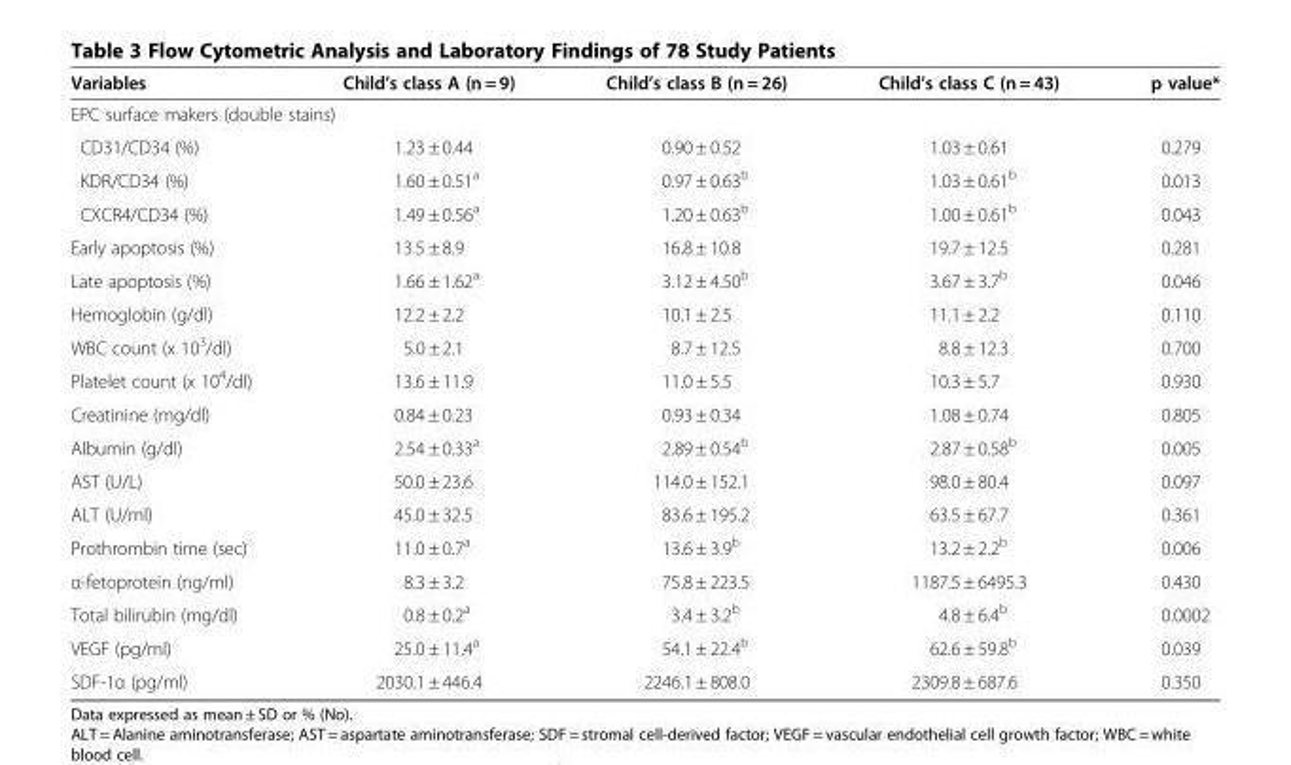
<table><thead><tr><td>Variables</td><td>Child’s class A (n = 9)</td><td>Child’s class B (n = 26)</td><td>Child’s class C (n = 43)</td><td>p value*</td></tr></thead><tbody><tr><td colspan="5">EPC surface makers (double stains)</td></tr><tr><td>CD31/CD34 (%)</td><td>1.23 ± 0.44</td><td>0.90 ± 0.52</td><td>1.03 ± 0.61</td><td>0.279</td></tr><tr><td>KDR/CD34 (%)</td><td>1.60 ± 0.51<sup>a</sup></td><td>0.97 ± 0.63<sup>b</sup></td><td>1.03 ± 0.61<sup>b</sup></td><td>0.013</td></tr><tr><td>CXCR4/CD34 (%)</td><td>1.49 ± 0.56<sup>a</sup></td><td>1.20 ± 0.63<sup>b</sup></td><td>1.00 ± 0.61<sup>b</sup></td><td>0.043</td></tr><tr><td>Early apoptosis (%)</td><td>13.5 ± 8.9</td><td>16.8 ± 10.8</td><td>19.7 ± 12.5</td><td>0.281</td></tr><tr><td>Late apoptosis (%)</td><td>1.66 ± 1.62<sup>a</sup></td><td>3.12 ± 4.50<sup>b</sup></td><td>3.67 ± 3.7<sup>b</sup></td><td>0.046</td></tr><tr><td>Hemoglobin (g/dl)</td><td>12.2 ± 2.2</td><td>10.1 ± 2.5</td><td>11.1 ± 2.2</td><td>0.110</td></tr><tr><td>WBC count (x 10<sup>3</sup>/dl)</td><td>5.0 ± 2.1</td><td>8.7 ± 12.5</td><td>8.8 ± 12.3</td><td>0.700</td></tr><tr><td>Platelet count (x 10<sup>4</sup>/dl)</td><td>13.6 ± 11.9</td><td>11.0 ± 5.5</td><td>10.3 ± 5.7</td><td>0.930</td></tr><tr><td>Creatinine (mg/dl)</td><td>0.84 ± 0.23</td><td>0.93 ± 0.34</td><td>1.08 ± 0.74</td><td>0.805</td></tr><tr><td>Albumin (g/dl)</td><td>2.54 ± 0.33<sup>a</sup></td><td>2.89 ± 0.54<sup>b</sup></td><td>2.87 ± 0.58<sup>b</sup></td><td>0.005</td></tr><tr><td>AST (U/L)</td><td>50.0 ± 23.6</td><td>114.0 ± 152.1</td><td>98.0 ± 80.4</td><td>0.097</td></tr><tr><td>ALT (U/ml)</td><td>45.0 ± 32.5</td><td>83.6 ± 195.2</td><td>63.5 ± 67.7</td><td>0.361</td></tr><tr><td>Prothrombin time (sec)</td><td>11.0 ± 0.7<sup>a</sup></td><td>13.6 ± 3.9<sup>b</sup></td><td>13.2 ± 2.2<sup>b</sup></td><td>0.006</td></tr><tr><td>α-fetoprotein (ng/ml)</td><td>8.3 ± 3.2</td><td>75.8 ± 223.5</td><td>1187.5 ± 6495.3</td><td>0.430</td></tr><tr><td>Total bilirubin (mg/dl)</td><td>0.8 ± 0.2<sup>a</sup></td><td>3.4 ± 3.2<sup>b</sup></td><td>4.8 ± 6.4<sup>b</sup></td><td>0.0002</td></tr><tr><td>VEGF (pg/ml)</td><td>25.0 ± 11.4<sup>a</sup></td><td>54.1 ± 22.4<sup>b</sup></td><td>62.6 ± 59.8<sup>b</sup></td><td>0.039</td></tr><tr><td>SDF-1α (pg/ml)</td><td>2030.1 ± 446.4</td><td>2246.1 ± 808.0</td><td>2309.8 ± 687.6</td><td>0.350</td></tr></tbody></table>